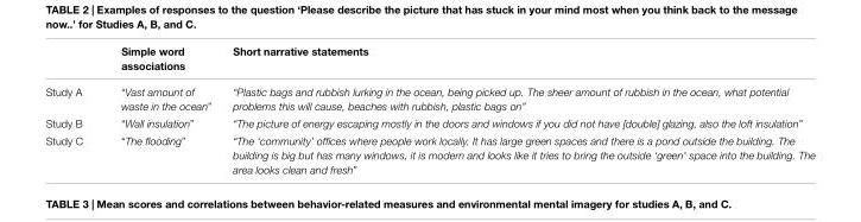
<table><thead><tr><td></td><td>Simple word associations</td><td>Short narrative statements</td></tr></thead><tbody><tr><td>Study A</td><td>“Vast amount of waste in the ocean”</td><td>“Plastic bags and rubbish lurking in the ocean, being picked up. The sheer amount of rubbish in the ocean, what potential problems this will cause, beaches with rubbish, plastic bags on”</td></tr><tr><td>Study B</td><td>“Wall insulation”</td><td>“The picture of energy escaping mostly in the doors and windows if you did not have [double] glazing, also the loft insulation”</td></tr><tr><td>Study C</td><td>“The flooding”</td><td>“The ‘community’ offices where people work locally. It has large green spaces and there is a pond outside the building. The building is big but has many windows, it is modern and looks like it tries to bring the outside ‘green’ space into the building. The area looks clean and fresh”</td></tr></tbody></table>